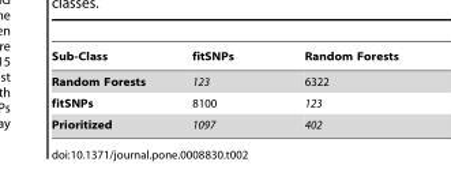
<table><thead><tr><td>Sub-Class</td><td>fitSNPs</td><td>Random Forests</td></tr></thead><tbody><tr><td>Random Forests</td><td>123</td><td>6322</td></tr><tr><td>fitSNPs</td><td>8100</td><td>123</td></tr><tr><td>Prioritized</td><td>1097</td><td>402</td></tr></tbody></table>